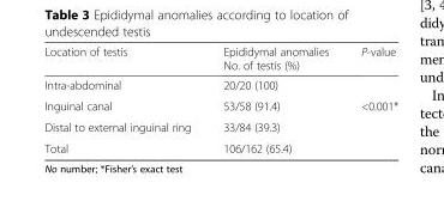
<table><thead><tr><td>Location of testis</td><td>Epididymal anomalies No. of testis (%)</td><td>P-value</td></tr></thead><tbody><tr><td>Intra-abdominal</td><td>20/20 (100)</td><td></td></tr><tr><td>Inguinal canal</td><td>53/58 (91.4)</td><td>&lt;0.001*</td></tr><tr><td>Distal to external inguinal ring</td><td>33/84 (39.3)</td><td></td></tr><tr><td>Total</td><td>106/162 (65.4)</td><td></td></tr></tbody></table>